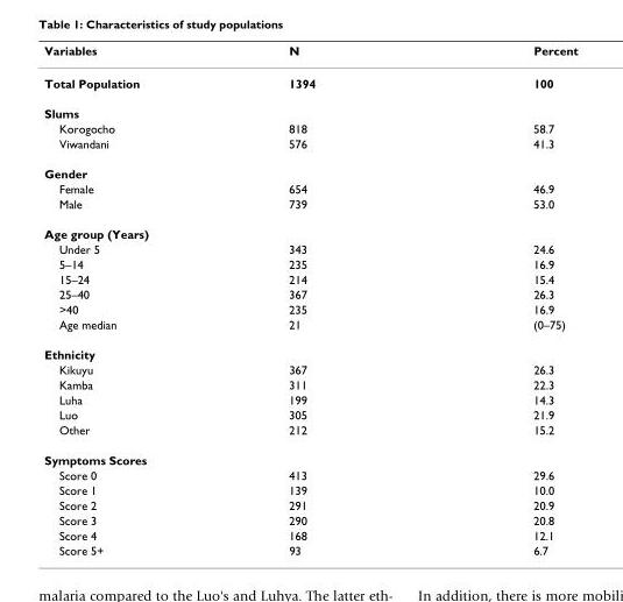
<table><thead><tr><td>Variables</td><td>N</td><td>Percent</td></tr></thead><tbody><tr><td>Total Population</td><td>1394</td><td>100</td></tr><tr><td colspan="3">Slums</td></tr><tr><td>Korogocho</td><td>818</td><td>58.7</td></tr><tr><td>Viwandani</td><td>576</td><td>41.3</td></tr><tr><td colspan="3">Gender</td></tr><tr><td>Female</td><td>654</td><td>46.9</td></tr><tr><td>Male</td><td>739</td><td>53.0</td></tr><tr><td colspan="3">Age group (Years)</td></tr><tr><td>Under 5</td><td>343</td><td>24.6</td></tr><tr><td>5–14</td><td>235</td><td>16.9</td></tr><tr><td>15–24</td><td>214</td><td>15.4</td></tr><tr><td>25–40</td><td>367</td><td>26.3</td></tr><tr><td>&gt;40</td><td>235</td><td>16.9</td></tr><tr><td>Age median</td><td>21</td><td>(0–75)</td></tr><tr><td colspan="3">Ethnicity</td></tr><tr><td>Kikuyu</td><td>367</td><td>26.3</td></tr><tr><td>Kamba</td><td>311</td><td>22.3</td></tr><tr><td>Luha</td><td>199</td><td>14.3</td></tr><tr><td>Luo</td><td>305</td><td>21.9</td></tr><tr><td>Other</td><td>212</td><td>15.2</td></tr><tr><td colspan="3">Symptoms Scores</td></tr><tr><td>Score 0</td><td>413</td><td>29.6</td></tr><tr><td>Score 1</td><td>139</td><td>10.0</td></tr><tr><td>Score 2</td><td>291</td><td>20.9</td></tr><tr><td>Score 3</td><td>290</td><td>20.8</td></tr><tr><td>Score 4</td><td>168</td><td>12.1</td></tr><tr><td>Score 5+</td><td>93</td><td>6.7</td></tr></tbody></table>